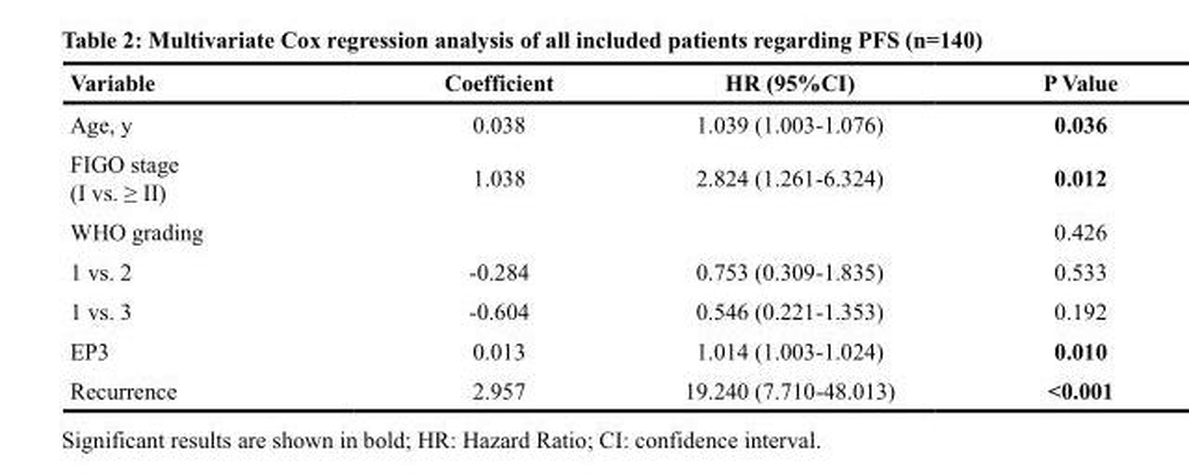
<table><thead><tr><td>Variable</td><td>Coefficient</td><td>HR (95%CI)</td><td>P Value</td></tr></thead><tbody><tr><td>Age, y</td><td>0.038</td><td>1.039 (1.003-1.076)</td><td>0.036</td></tr><tr><td>FIGO stage (I vs. ≥ II)</td><td>1.038</td><td>2.824 (1.261-6.324)</td><td>0.012</td></tr><tr><td>WHO grading</td><td></td><td></td><td>0.426</td></tr><tr><td>1 vs. 2</td><td>-0.284</td><td>0.753 (0.309-1.835)</td><td>0.533</td></tr><tr><td>1 vs. 3</td><td>-0.604</td><td>0.546 (0.221-1.353)</td><td>0.192</td></tr><tr><td>EP3</td><td>0.013</td><td>1.014 (1.003-1.024)</td><td>0.010</td></tr><tr><td>Recurrence</td><td>2.957</td><td>19.240 (7.710-48.013)</td><td>&lt;0.001</td></tr></tbody></table>